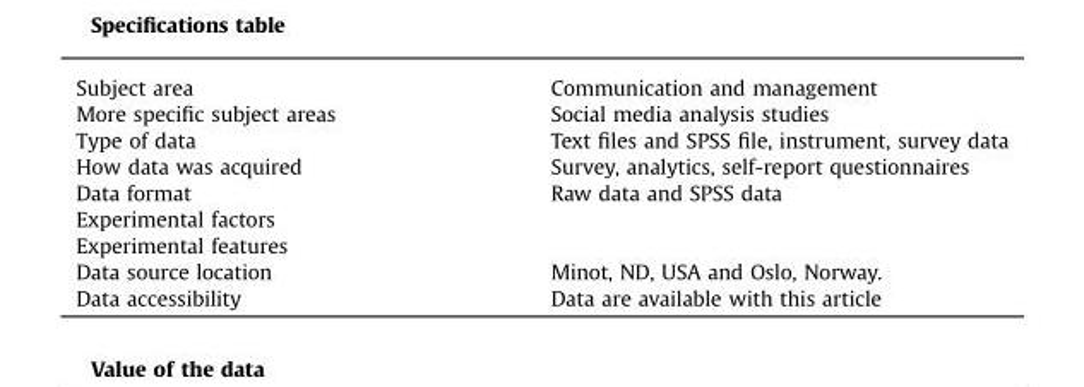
<table><tbody><tr><td>Subject area</td><td>Communication and management</td></tr><tr><td>More specific subject areas</td><td>Social media analysis studies</td></tr><tr><td>Type of data</td><td>Text files and SPSS file, instrument, survey data</td></tr><tr><td>How data was acquired</td><td>Survey, analytics, self-report questionnaires</td></tr><tr><td>Data format</td><td>Raw data and SPSS data</td></tr><tr><td colspan="2">Experimental factors</td></tr><tr><td colspan="2">Experimental features</td></tr><tr><td>Data source location</td><td>Minot, ND, USA and Oslo, Norway.</td></tr><tr><td>Data accessibility</td><td>Data are available with this article</td></tr></tbody></table>